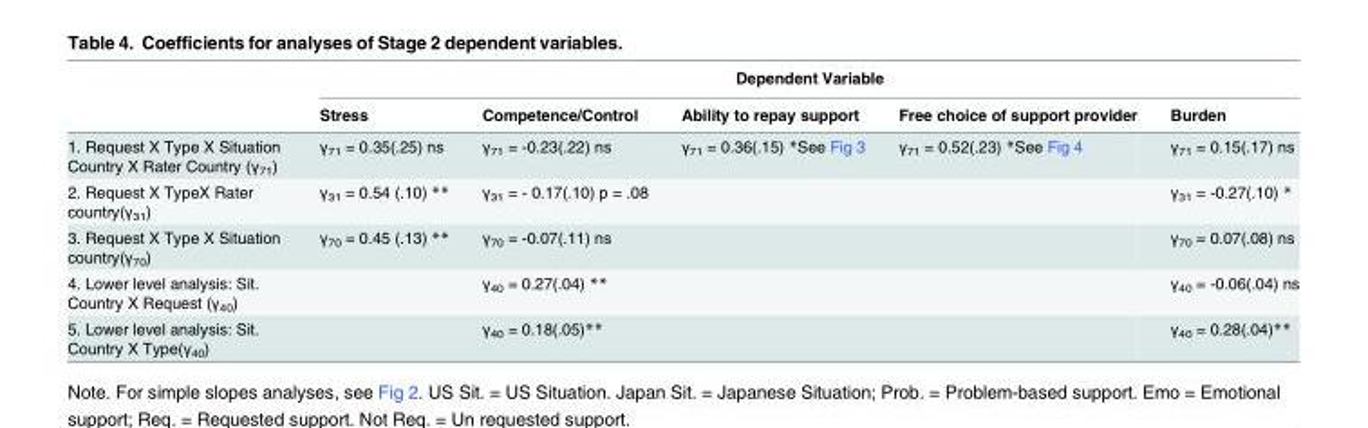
<table><thead><tr><td rowspan="2"></td><td colspan="5">Dependent Variable</td></tr><tr><td>Stress</td><td>Competence/Control</td><td>Ability to repay support</td><td>Free choice of support provider</td><td>Burden</td></tr></thead><tbody><tr><td>1. Request X Type X Situation Country X Rater Country (γ<sub>71</sub>)</td><td>γ<sub>71</sub> = 0.35(.25) ns</td><td>γ<sub>71</sub> = -0.23(.22) ns</td><td>γ<sub>71</sub> = 0.36(.15) *See Fig 3</td><td>γ<sub>71</sub> = 0.52(.23) *See Fig 4</td><td>γ<sub>71</sub> = 0.15(.17) ns</td></tr><tr><td>2. Request X TypeX Rater country(γ<sub>31</sub>)</td><td>γ<sub>31</sub> = 0.54 (.10) **</td><td>γ<sub>31</sub> = - 0.17(.10) p = .08</td><td></td><td></td><td>γ<sub>31</sub> = -0.27(.10) *</td></tr><tr><td>3. Request X Type X Situation country(γ<sub>70</sub>)</td><td>γ<sub>70</sub> = 0.45 (.13) **</td><td>γ<sub>70</sub> = -0.07(.11) ns</td><td></td><td></td><td>γ<sub>70</sub> = 0.07(.08) ns</td></tr><tr><td>4. Lower level analysis: Sit. Country X Request (γ<sub>40</sub>)</td><td></td><td>γ<sub>40</sub> = 0.27(.04) **</td><td></td><td></td><td>γ<sub>40</sub> = -0.06(.04) ns</td></tr><tr><td>5. Lower level analysis: Sit. Country X Type(γ<sub>40</sub>)</td><td></td><td>γ<sub>40</sub> = 0.18(.05)**</td><td></td><td></td><td>γ<sub>40</sub> = 0.28(.04)**</td></tr></tbody></table>